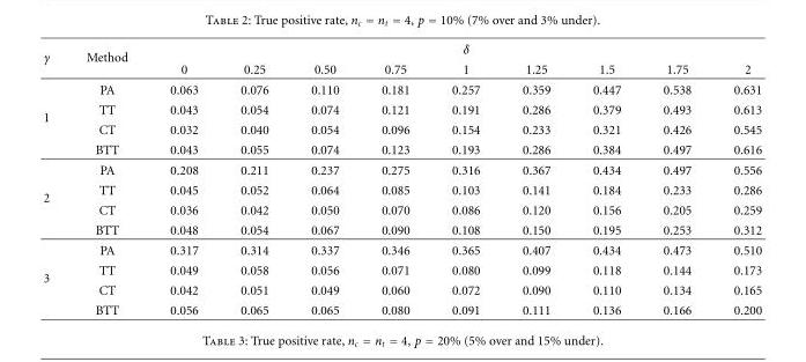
<table><thead><tr><td rowspan="2">γ</td><td rowspan="2">Method</td><td colspan="9">δ</td></tr><tr><td>0</td><td>0.25</td><td>0.50</td><td>0.75</td><td>1</td><td>1.25</td><td>1.5</td><td>1.75</td><td>2</td></tr></thead><tbody><tr><td rowspan="4">1</td><td>PA</td><td>0.063</td><td>0.076</td><td>0.110</td><td>0.181</td><td>0.257</td><td>0.359</td><td>0.447</td><td>0.538</td><td>0.631</td></tr><tr><td>TT</td><td>0.043</td><td>0.054</td><td>0.074</td><td>0.121</td><td>0.191</td><td>0.286</td><td>0.379</td><td>0.493</td><td>0.613</td></tr><tr><td>CT</td><td>0.032</td><td>0.040</td><td>0.054</td><td>0.096</td><td>0.154</td><td>0.233</td><td>0.321</td><td>0.426</td><td>0.545</td></tr><tr><td>BTT</td><td>0.043</td><td>0.055</td><td>0.074</td><td>0.123</td><td>0.193</td><td>0.286</td><td>0.384</td><td>0.497</td><td>0.616</td></tr><tr><td rowspan="4">2</td><td>PA</td><td>0.208</td><td>0.211</td><td>0.237</td><td>0.275</td><td>0.316</td><td>0.367</td><td>0.434</td><td>0.497</td><td>0.556</td></tr><tr><td>TT</td><td>0.045</td><td>0.052</td><td>0.064</td><td>0.085</td><td>0.103</td><td>0.141</td><td>0.184</td><td>0.233</td><td>0.286</td></tr><tr><td>CT</td><td>0.036</td><td>0.042</td><td>0.050</td><td>0.070</td><td>0.086</td><td>0.120</td><td>0.156</td><td>0.205</td><td>0.259</td></tr><tr><td>BTT</td><td>0.048</td><td>0.054</td><td>0.067</td><td>0.090</td><td>0.108</td><td>0.150</td><td>0.195</td><td>0.253</td><td>0.312</td></tr><tr><td rowspan="4">3</td><td>PA</td><td>0.317</td><td>0.314</td><td>0.337</td><td>0.346</td><td>0.365</td><td>0.407</td><td>0.434</td><td>0.473</td><td>0.510</td></tr><tr><td>TT</td><td>0.049</td><td>0.058</td><td>0.056</td><td>0.071</td><td>0.080</td><td>0.099</td><td>0.118</td><td>0.144</td><td>0.173</td></tr><tr><td>CT</td><td>0.042</td><td>0.051</td><td>0.049</td><td>0.060</td><td>0.072</td><td>0.090</td><td>0.110</td><td>0.134</td><td>0.165</td></tr><tr><td>BTT</td><td>0.056</td><td>0.065</td><td>0.065</td><td>0.080</td><td>0.091</td><td>0.111</td><td>0.136</td><td>0.166</td><td>0.200</td></tr></tbody></table>